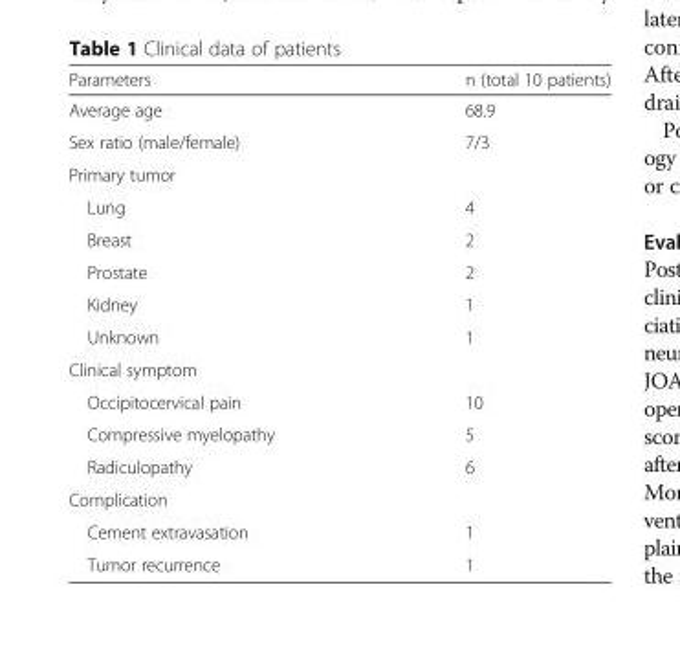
<table><thead><tr><td>Parameters</td><td>n (total 10 patients)</td></tr></thead><tbody><tr><td>Average age</td><td>68.9</td></tr><tr><td>Sex ratio (male/female)</td><td>7/3</td></tr><tr><td colspan="2">Primary tumor</td></tr><tr><td>Lung</td><td>4</td></tr><tr><td>Breast</td><td>2</td></tr><tr><td>Prostate</td><td>2</td></tr><tr><td>Kidney</td><td>1</td></tr><tr><td>Unknown</td><td>1</td></tr><tr><td colspan="2">Clinical symptom</td></tr><tr><td>Occipitocervical pain</td><td>10</td></tr><tr><td>Compressive myelopathy</td><td>5</td></tr><tr><td>Radiculopathy</td><td>6</td></tr><tr><td colspan="2">Complication</td></tr><tr><td>Cement extravasation</td><td>1</td></tr><tr><td>Tumor recurrence</td><td>1</td></tr></tbody></table>